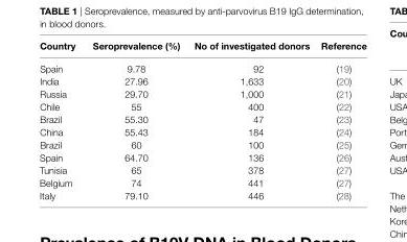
<table><thead><tr><td>Country</td><td>Seroprevalence (%)</td><td>No of investigated donors</td><td>Reference</td></tr></thead><tbody><tr><td>Spain</td><td>9.78</td><td>92</td><td>(19)</td></tr><tr><td>India</td><td>27.96</td><td>1,633</td><td>(20)</td></tr><tr><td>Russia</td><td>29.70</td><td>1,000</td><td>(21)</td></tr><tr><td>Chile</td><td>55</td><td>400</td><td>(22)</td></tr><tr><td>Brazil</td><td>55.30</td><td>47</td><td>(23)</td></tr><tr><td>China</td><td>55.43</td><td>184</td><td>(24)</td></tr><tr><td>Brazil</td><td>60</td><td>100</td><td>(25)</td></tr><tr><td>Spain</td><td>64.70</td><td>136</td><td>(26)</td></tr><tr><td>Tunisia</td><td>65</td><td>378</td><td>(27)</td></tr><tr><td>Belgium</td><td>74</td><td>441</td><td>(27)</td></tr><tr><td>Italy</td><td>79.10</td><td>446</td><td>(28)</td></tr></tbody></table>